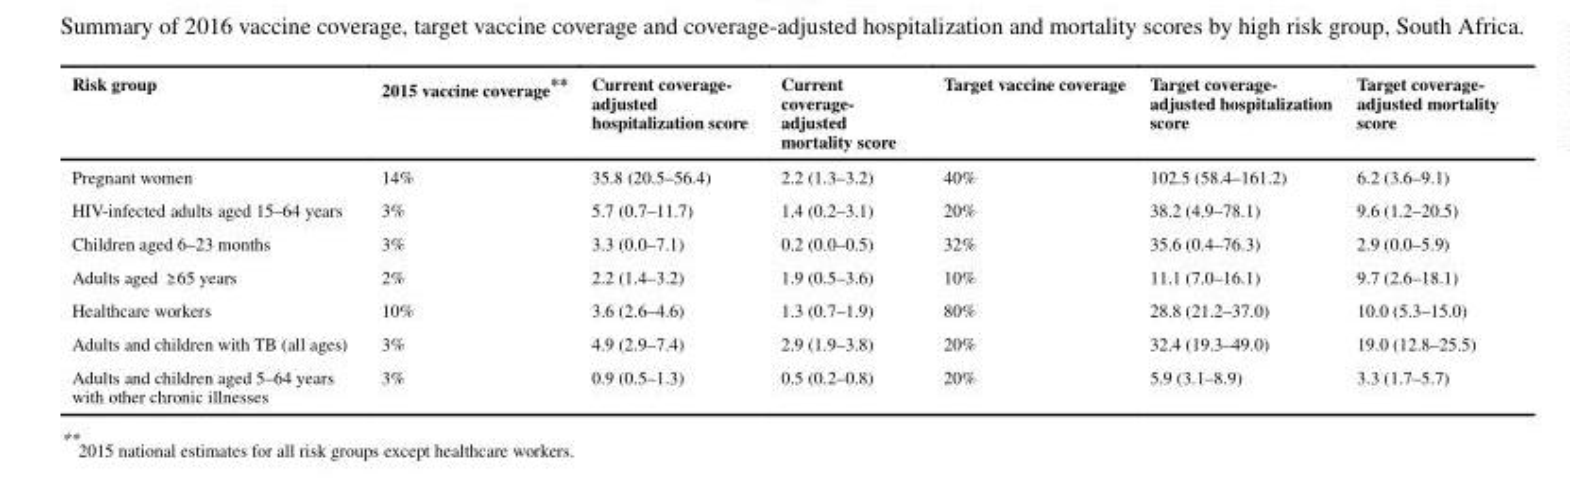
<table><thead><tr><td>Risk group</td><td>2015 vaccine coverage**</td><td>Current coverage- adjusted hospitalization score</td><td>Current coverage- adjusted mortality score</td><td>Target vaccine coverage</td><td>Target coverage- adjusted hospitalization score</td><td>Target coverage- adjusted mortality score</td></tr></thead><tbody><tr><td>Pregnant women</td><td>14%</td><td>35.8 (20.5–56.4)</td><td>2.2 (1.3–3.2)</td><td>40%</td><td>102.5 (58.4–161.2)</td><td>6.2 (3.6–9.1)</td></tr><tr><td>HIV-infected adults aged 15–64 years</td><td>3%</td><td>5.7 (0.7–11.7)</td><td>1.4 (0.2–3.1)</td><td>20%</td><td>38.2 (4.9–78.1)</td><td>9.6 (1.2–20.5)</td></tr><tr><td>Children aged 6–23 months</td><td>3%</td><td>3.3 (0.0–7.1)</td><td>0.2 (0.0–0.5)</td><td>32%</td><td>35.6 (0.4–76.3)</td><td>2.9 (0.0–5.9)</td></tr><tr><td>Adults aged ≥ 65 years</td><td>2%</td><td>2.2 (1.4–3.2)</td><td>1.9 (0.5–3.6)</td><td>10%</td><td>11.1 (7.0–16.1)</td><td>9.7 (2.6–18.1)</td></tr><tr><td>Healthcare workers</td><td>10%</td><td>3.6 (2.6–4.6)</td><td>1.3 (0.7–1.9)</td><td>80%</td><td>28.8 (21.2–37.0)</td><td>10.0 (5.3–15.0)</td></tr><tr><td>Adults and children with TB (all ages)</td><td>3%</td><td>4.9 (2.9–7.4)</td><td>2.9 (1.9–3.8)</td><td>20%</td><td>32.4 (19.3–49.0)</td><td>19.0 (12.8–25.5)</td></tr><tr><td>Adults and children aged 5–64 years with other chronic illnesses</td><td>3%</td><td>0.9 (0.5–1.3)</td><td>0.5 (0.2–0.8)</td><td>20%</td><td>5.9 (3.1–8.9)</td><td>3.3 (1.7–5.7)</td></tr></tbody></table>